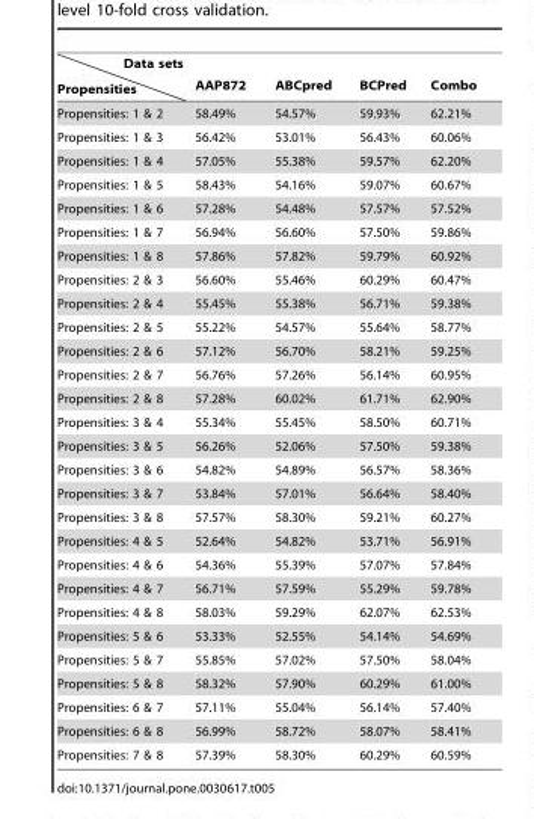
<table><thead><tr><td>Data sets Propensities</td><td>AAP872</td><td>ABCpred</td><td>BCPred</td><td>Combo</td></tr></thead><tbody><tr><td>Propensities: 1 &amp; 2</td><td>58.49%</td><td>54.57%</td><td>59.93%</td><td>62.21%</td></tr><tr><td>Propensities: 1 &amp; 3</td><td>56.42%</td><td>53.01%</td><td>56.43%</td><td>60.06%</td></tr><tr><td>Propensities: 1 &amp; 4</td><td>57.05%</td><td>55.38%</td><td>59.57%</td><td>62.20%</td></tr><tr><td>Propensities: 1 &amp; 5</td><td>58.43%</td><td>54.16%</td><td>59.07%</td><td>60.67%</td></tr><tr><td>Propensities: 1 &amp; 6</td><td>57.28%</td><td>54.48%</td><td>57.57%</td><td>57.52%</td></tr><tr><td>Propensities: 1 &amp; 7</td><td>56.94%</td><td>56.60%</td><td>57.50%</td><td>59.86%</td></tr><tr><td>Propensities: 1 &amp; 8</td><td>57.86%</td><td>57.82%</td><td>59.79%</td><td>60.92%</td></tr><tr><td>Propensities: 2 &amp; 3</td><td>56.60%</td><td>55.46%</td><td>60.29%</td><td>60.47%</td></tr><tr><td>Propensities: 2 &amp; 4</td><td>55.45%</td><td>55.38%</td><td>56.71%</td><td>59.38%</td></tr><tr><td>Propensities: 2 &amp; 5</td><td>55.22%</td><td>54.57%</td><td>55.64%</td><td>58.77%</td></tr><tr><td>Propensities: 2 &amp; 6</td><td>57.12%</td><td>56.70%</td><td>58.21%</td><td>59.25%</td></tr><tr><td>Propensities: 2 &amp; 7</td><td>56.76%</td><td>57.26%</td><td>56.14%</td><td>60.95%</td></tr><tr><td>Propensities: 2 &amp; 8</td><td>57.28%</td><td>60.02%</td><td>61.71%</td><td>62.90%</td></tr><tr><td>Propensities: 3 &amp; 4</td><td>55.34%</td><td>55.45%</td><td>58.50%</td><td>60.71%</td></tr><tr><td>Propensities: 3 &amp; 5</td><td>56.26%</td><td>52.06%</td><td>57.50%</td><td>59.38%</td></tr><tr><td>Propensities: 3 &amp; 6</td><td>54.82%</td><td>54.89%</td><td>56.57%</td><td>58.36%</td></tr><tr><td>Propensities: 3 &amp; 7</td><td>53.84%</td><td>57.01%</td><td>56.64%</td><td>58.40%</td></tr><tr><td>Propensities: 3 &amp; 8</td><td>57.57%</td><td>58.30%</td><td>59.21%</td><td>60.27%</td></tr><tr><td>Propensities: 4 &amp; 5</td><td>52.64%</td><td>54.82%</td><td>53.71%</td><td>56.91%</td></tr><tr><td>Propensities: 4 &amp; 6</td><td>54.36%</td><td>55.39%</td><td>57.07%</td><td>57.84%</td></tr><tr><td>Propensities: 4 &amp; 7</td><td>56.71%</td><td>57.59%</td><td>55.29%</td><td>59.78%</td></tr><tr><td>Propensities: 4 &amp; 8</td><td>58.03%</td><td>59.29%</td><td>62.07%</td><td>62.53%</td></tr><tr><td>Propensities: 5 &amp; 6</td><td>53.33%</td><td>52.55%</td><td>54.14%</td><td>54.69%</td></tr><tr><td>Propensities: 5 &amp; 7</td><td>55.85%</td><td>57.02%</td><td>57.50%</td><td>58.04%</td></tr><tr><td>Propensities: 5 &amp; 8</td><td>58.32%</td><td>57.90%</td><td>60.29%</td><td>61.00%</td></tr><tr><td>Propensities: 6 &amp; 7</td><td>57.11%</td><td>55.04%</td><td>56.14%</td><td>57.40%</td></tr><tr><td>Propensities: 6 &amp; 8</td><td>56.99%</td><td>58.72%</td><td>58.07%</td><td>58.41%</td></tr><tr><td>Propensities: 7 &amp; 8</td><td>57.39%</td><td>58.30%</td><td>60.29%</td><td>60.59%</td></tr></tbody></table>